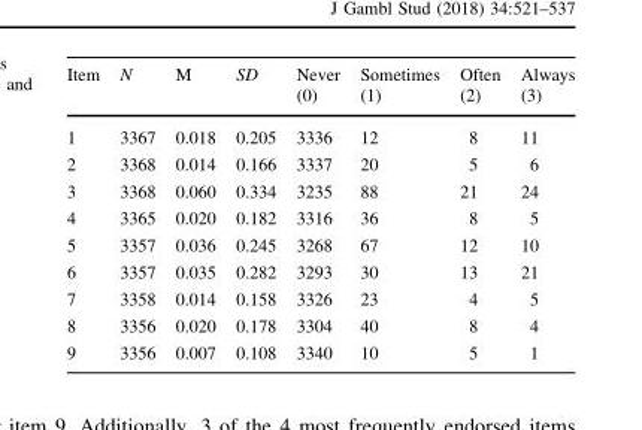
<table><thead><tr><td>Item</td><td>N</td><td>M</td><td>SD</td><td>Never (0)</td><td>Sometimes (1)</td><td>Often (2)</td><td>Always (3)</td></tr></thead><tbody><tr><td>1</td><td>3367</td><td>0.018</td><td>0.205</td><td>3336</td><td>12</td><td>8</td><td>11</td></tr><tr><td>2</td><td>3368</td><td>0.014</td><td>0.166</td><td>3337</td><td>20</td><td>5</td><td>6</td></tr><tr><td>3</td><td>3368</td><td>0.060</td><td>0.334</td><td>3235</td><td>88</td><td>21</td><td>24</td></tr><tr><td>4</td><td>3365</td><td>0.020</td><td>0.182</td><td>3316</td><td>36</td><td>8</td><td>5</td></tr><tr><td>5</td><td>3357</td><td>0.036</td><td>0.245</td><td>3268</td><td>67</td><td>12</td><td>10</td></tr><tr><td>6</td><td>3357</td><td>0.035</td><td>0.282</td><td>3293</td><td>30</td><td>13</td><td>21</td></tr><tr><td>7</td><td>3358</td><td>0.014</td><td>0.158</td><td>3326</td><td>23</td><td>4</td><td>5</td></tr><tr><td>8</td><td>3356</td><td>0.020</td><td>0.178</td><td>3304</td><td>40</td><td>8</td><td>4</td></tr><tr><td>9</td><td>3356</td><td>0.007</td><td>0.108</td><td>3340</td><td>10</td><td>5</td><td>1</td></tr></tbody></table>